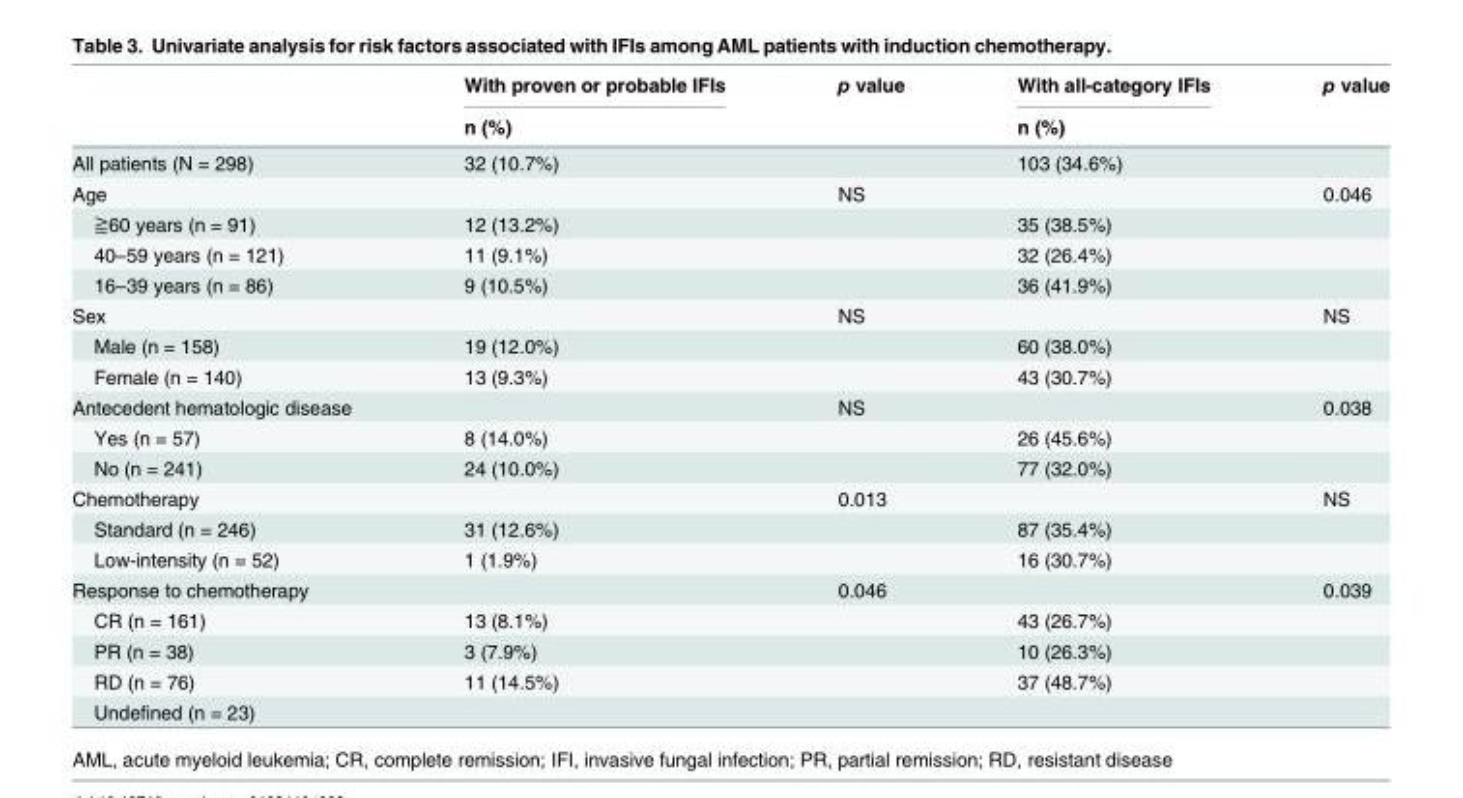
<table><thead><tr><td rowspan="2"></td><td rowspan="2">With proven or probable IFIs n (%)</td><td rowspan="2">p value</td><td rowspan="2">With all-category IFIs n (%)</td><td rowspan="2">p value</td></tr><tr></tr></thead><tbody><tr><td>All patients (N = 298)</td><td>32 (10.7%)</td><td></td><td>103 (34.6%)</td><td></td></tr><tr><td>Age</td><td></td><td>NS</td><td></td><td>0.046</td></tr><tr><td>≧60 years (n = 91)</td><td>12 (13.2%)</td><td></td><td>35 (38.5%)</td><td></td></tr><tr><td>40–59 years (n = 121)</td><td>11 (9.1%)</td><td></td><td>32 (26.4%)</td><td></td></tr><tr><td>16–39 years (n = 86)</td><td>9 (10.5%)</td><td></td><td>36 (41.9%)</td><td></td></tr><tr><td>Sex</td><td></td><td>NS</td><td></td><td>NS</td></tr><tr><td>Male (n = 158)</td><td>19 (12.0%)</td><td></td><td>60 (38.0%)</td><td></td></tr><tr><td>Female (n = 140)</td><td>13 (9.3%)</td><td></td><td>43 (30.7%)</td><td></td></tr><tr><td>Antecedent hematologic disease</td><td></td><td>NS</td><td></td><td>0.038</td></tr><tr><td>Yes (n = 57)</td><td>8 (14.0%)</td><td></td><td>26 (45.6%)</td><td></td></tr><tr><td>No (n = 241)</td><td>24 (10.0%)</td><td></td><td>77 (32.0%)</td><td></td></tr><tr><td>Chemotherapy</td><td></td><td>0.013</td><td></td><td>NS</td></tr><tr><td>Standard (n = 246)</td><td>31 (12.6%)</td><td></td><td>87 (35.4%)</td><td></td></tr><tr><td>Low-intensity (n = 52)</td><td>1 (1.9%)</td><td></td><td>16 (30.7%)</td><td></td></tr><tr><td>Response to chemotherapy</td><td></td><td>0.046</td><td></td><td>0.039</td></tr><tr><td>CR (n = 161)</td><td>13 (8.1%)</td><td></td><td>43 (26.7%)</td><td></td></tr><tr><td>PR (n = 38)</td><td>3 (7.9%)</td><td></td><td>10 (26.3%)</td><td></td></tr><tr><td>RD (n = 76)</td><td>11 (14.5%)</td><td></td><td>37 (48.7%)</td><td></td></tr><tr><td>Undefined (n = 23)</td><td></td><td></td><td></td><td></td></tr></tbody></table>